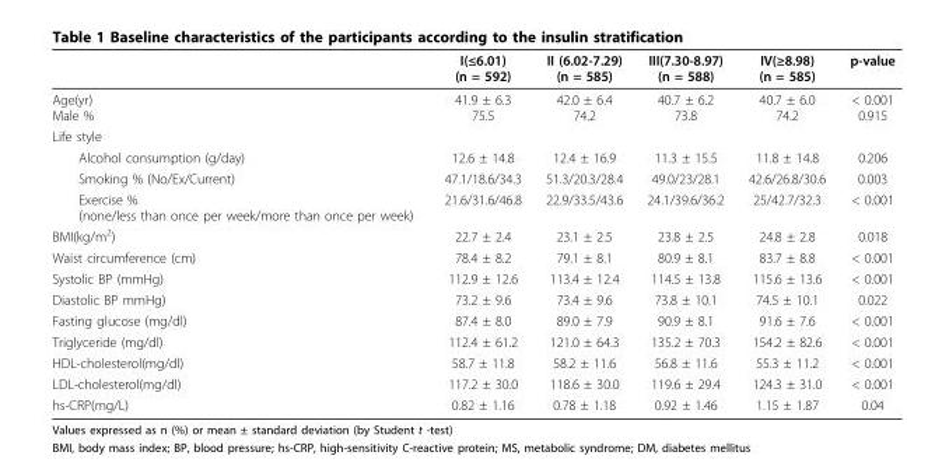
<table><thead><tr><td></td><td>I(≤6.01) (n = 592)</td><td>II (6.02-7.29) (n = 585)</td><td>III(7.30-8.97) (n = 588)</td><td>IV(≥8.98) (n = 585)</td><td>p-value</td></tr></thead><tbody><tr><td>Age(yr) Male %</td><td>41.9 ± 6.3 75.5</td><td>42.0 ± 6.4 74.2</td><td>40.7 ± 6.2 73.8</td><td>40.7 ± 6.0 74.2</td><td>&lt; 0.001 0.915</td></tr><tr><td colspan="6">Life style</td></tr><tr><td>Alcohol consumption (g/day)</td><td>12.6 ± 14.8</td><td>12.4 ± 16.9</td><td>11.3 ± 15.5</td><td>11.8 ± 14.8</td><td>0.206</td></tr><tr><td>Smoking % (No/Ex/Current)</td><td>47.1/18.6/34.3</td><td>51.3/20.3/28.4</td><td>49.0/23/28.1</td><td>42.6/26.8/30.6</td><td>0.003</td></tr><tr><td>Exercise % (none/less than once per week/more than once per week)</td><td>21.6/31.6/46.8</td><td>22.9/33.5/43.6</td><td>24.1/39.6/36.2</td><td>25/42.7/32.3</td><td>&lt; 0.001</td></tr><tr><td>BMI(kg/m<sup>2</sup>)</td><td>22.7 ± 2.4</td><td>23.1 ± 2.5</td><td>23.8 ± 2.5</td><td>24.8 ± 2.8</td><td>0.018</td></tr><tr><td>Waist circumference (cm)</td><td>78.4 ± 8.2</td><td>79.1 ± 8.1</td><td>80.9 ± 8.1</td><td>83.7 ± 8.8</td><td>&lt; 0.001</td></tr><tr><td>Systolic BP (mmHg)</td><td>112.9 ± 12.6</td><td>113.4 ± 12.4</td><td>114.5 ± 13.8</td><td>115.6 ± 13.6</td><td>&lt; 0.001</td></tr><tr><td>Diastolic BP mmHg)</td><td>73.2 ± 9.6</td><td>73.4 ± 9.6</td><td>73.8 ± 10.1</td><td>74.5 ± 10.1</td><td>0.022</td></tr><tr><td>Fasting glucose (mg/dl)</td><td>87.4 ± 8.0</td><td>89.0 ± 7.9</td><td>90.9 ± 8.1</td><td>91.6 ± 7.6</td><td>&lt; 0.001</td></tr><tr><td>Triglyceride (mg/dl)</td><td>112.4 ± 61.2</td><td>121.0 ± 64.3</td><td>135.2 ± 70.3</td><td>154.2 ± 82.6</td><td>&lt; 0.001</td></tr><tr><td>HDL-cholesterol(mg/dl)</td><td>58.7 ± 11.8</td><td>58.2 ± 11.6</td><td>56.8 ± 11.6</td><td>55.3 ± 11.2</td><td>&lt; 0.001</td></tr><tr><td>LDL-cholesterol(mg/dl)</td><td>117.2 ± 30.0</td><td>118.6 ± 30.0</td><td>119.6 ± 29.4</td><td>124.3 ± 31.0</td><td>&lt; 0.001</td></tr><tr><td>hs-CRP(mg/L)</td><td>0.82 ± 1.16</td><td>0.78 ± 1.18</td><td>0.92 ± 1.46</td><td>1.15 ± 1.87</td><td>0.04</td></tr></tbody></table>